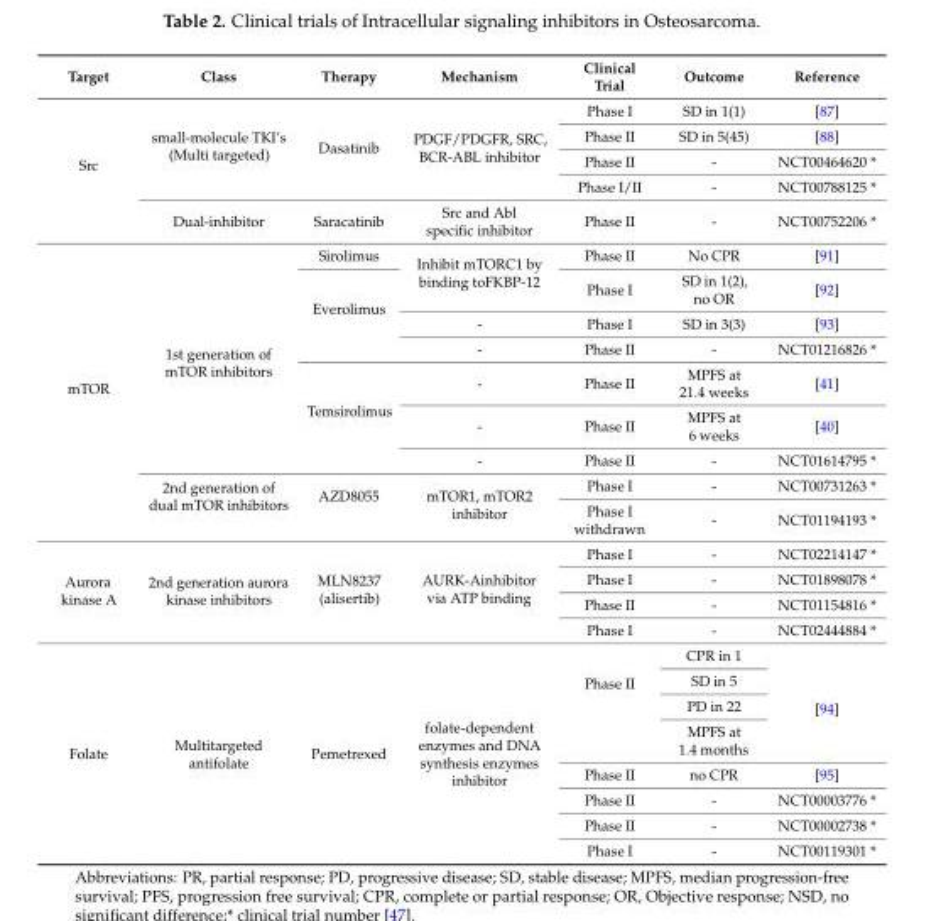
<table><thead><tr><td>Target</td><td>Class</td><td>Therapy</td><td>Mechanism</td><td>Clinical Trial</td><td>Outcome</td><td>Reference</td></tr></thead><tbody><tr><td rowspan="5">Src</td><td rowspan="4">small-molecule TKI’s (Multi targeted)</td><td rowspan="4">Dasatinib</td><td rowspan="4">PDGF/PDGFR, SRC, BCR-ABL inhibitor</td><td>Phase I</td><td>SD in 1(1)</td><td>[87]</td></tr><tr><td>Phase II</td><td>SD in 5(45)</td><td>[88]</td></tr><tr><td>Phase II</td><td>-</td><td>NCT00464620 *</td></tr><tr><td>Phase I/II</td><td>-</td><td>NCT00788125 *</td></tr><tr><td>Dual-inhibitor</td><td>Saracatinib</td><td>Src and Abl specific inhibitor</td><td>Phase II</td><td>-</td><td>NCT00752206 *</td></tr><tr><td rowspan="9">mTOR</td><td rowspan="7">1st generation of mTOR inhibitors</td><td>Sirolimus</td><td rowspan="2">Inhibit mTORC1 by binding toFKBP-12</td><td>Phase II</td><td>No CPR</td><td>[91]</td></tr><tr><td rowspan="3">Everolimus</td><td>Phase I</td><td>SD in 1(2), no OR</td><td>[92]</td></tr><tr><td>-</td><td>Phase I</td><td>SD in 3(3)</td><td>[93]</td></tr><tr><td>-</td><td>Phase II</td><td>-</td><td>NCT01216826 *</td></tr><tr><td rowspan="3">Temsirolimus</td><td>-</td><td>Phase II</td><td>MPFS at 21.4 weeks</td><td>[41]</td></tr><tr><td>-</td><td>Phase II</td><td>MPFS at 6 weeks</td><td>[40]</td></tr><tr><td>-</td><td>Phase II</td><td>-</td><td>NCT01614795 *</td></tr><tr><td rowspan="2">2nd generation of dual mTOR inhibitors</td><td rowspan="2">AZD8055</td><td rowspan="2">mTOR1, mTOR2 inhibitor</td><td>Phase I</td><td>-</td><td>NCT00731263 *</td></tr><tr><td>Phase I withdrawn</td><td>-</td><td>NCT01194193 *</td></tr><tr><td rowspan="4">Aurora kinase A</td><td rowspan="4">2nd generation aurora kinase inhibitors</td><td rowspan="4">MLN8237 (alisertib)</td><td rowspan="4">AURK-Ainhibitor via ATP binding</td><td>Phase I</td><td>-</td><td>NCT02214147 *</td></tr><tr><td>Phase I</td><td>-</td><td>NCT01898078 *</td></tr><tr><td>Phase II</td><td>-</td><td>NCT01154816 *</td></tr><tr><td>Phase I</td><td>-</td><td>NCT02444884 *</td></tr><tr><td rowspan="8">Folate</td><td rowspan="8">Multitargeted antifolate</td><td rowspan="8">Pemetrexed</td><td rowspan="8">folate-dependent enzymes and DNA synthesis enzymes inhibitor</td><td rowspan="4">Phase II</td><td>CPR in 1</td><td rowspan="4">[94]</td></tr><tr><td>SD in 5</td></tr><tr><td>PD in 22</td></tr><tr><td>MPFS at 1.4 months</td></tr><tr><td>Phase II</td><td>no CPR</td><td>[95]</td></tr><tr><td>Phase II</td><td>-</td><td>NCT00003776 *</td></tr><tr><td>Phase II</td><td>-</td><td>NCT00002738 *</td></tr><tr><td>Phase I</td><td>-</td><td>NCT00119301 *</td></tr></tbody></table>